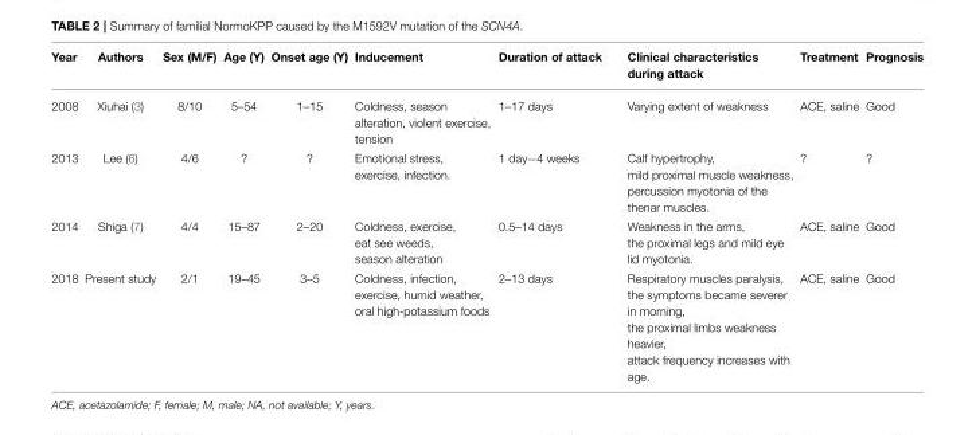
<table><thead><tr><td>Year</td><td>Authors</td><td>Sex (M/F)</td><td>Age (Y)</td><td>Onset age (Y)</td><td>Inducement</td><td>Duration of attack</td><td>Clinical characteristics during attack</td><td>Treatment</td><td>Prognosis</td></tr></thead><tbody><tr><td>2008</td><td>Xiuhai (3)</td><td>8/10</td><td>5–54</td><td>1–15</td><td>Coldness, season alteration, violent exercise, tension</td><td>1–17 days</td><td>Varying extent of weakness</td><td>ACE, saline</td><td>Good</td></tr><tr><td>2013</td><td>Lee (6)</td><td>4/6</td><td>?</td><td>?</td><td>Emotional stress, exercise, infection.</td><td>1 day−4 weeks</td><td>Calf hypertrophy, mild proximal muscle weakness, percussion myotonia of the thenar muscles.</td><td>?</td><td>?</td></tr><tr><td>2014</td><td>Shiga (7)</td><td>4/4</td><td>15–87</td><td>2–20</td><td>Coldness, exercise, eat see weeds, season alteration</td><td>0.5–14 days</td><td>Weakness in the arms, the proximal legs and mild eye lid myotonia.</td><td>ACE, saline</td><td>Good</td></tr><tr><td>2018</td><td>Present study</td><td>2/1</td><td>19–45</td><td>3–5</td><td>Coldness, infection, exercise, humid weather, oral high-potassium foods</td><td>2–13 days</td><td>Respiratory muscles paralysis, the symptoms became severer in morning, the proximal limbs weakness heavier, attack frequency increases with age.</td><td>ACE, saline</td><td>Good</td></tr></tbody></table>